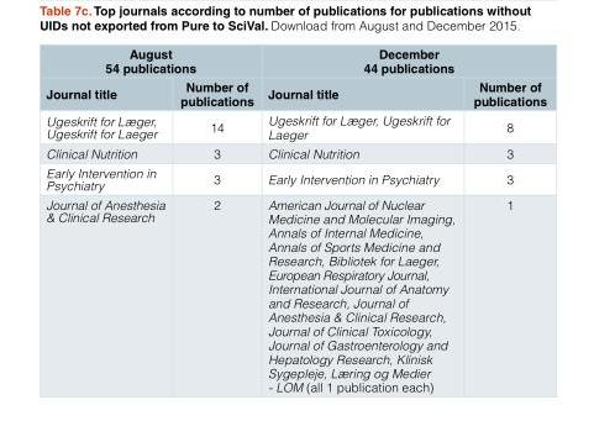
<table><thead><tr><td colspan="2">August 54 publications</td><td colspan="2">December 44 publications</td></tr><tr><td>Journal title</td><td>Number of publications</td><td>Journal title</td><td>Number of publications</td></tr></thead><tbody><tr><td>Ugeskrift for Læger, Ugeskrift for Laeger</td><td>14</td><td>Ugeskrift for Læger, Ugeskrift for Laeger</td><td>8</td></tr><tr><td>Clinical Nutrition</td><td>3</td><td>Clinical Nutrition</td><td>3</td></tr><tr><td>Early Intervention in Psychiatry</td><td>3</td><td>Early Intervention in Psychiatry</td><td>3</td></tr><tr><td>Journal of Anesthesia &amp; Clinical Research</td><td>2</td><td>American Journal of Nuclear Medicine and Molecular Imaging, Annals of Internal Medicine, Annals of Sports Medicine and Research, Bibliotek for Laeger, European Respiratory Journal, International Journal of Anatomy and Research, Journal of Anesthesia &amp; Clinical Research, Journal of Clinical Toxicology, Journal of Gastroenterology and Hepatology Research, Klinisk Sygepleje, Læring og Medier - LOM (all 1 publication each)</td><td>1</td></tr></tbody></table>